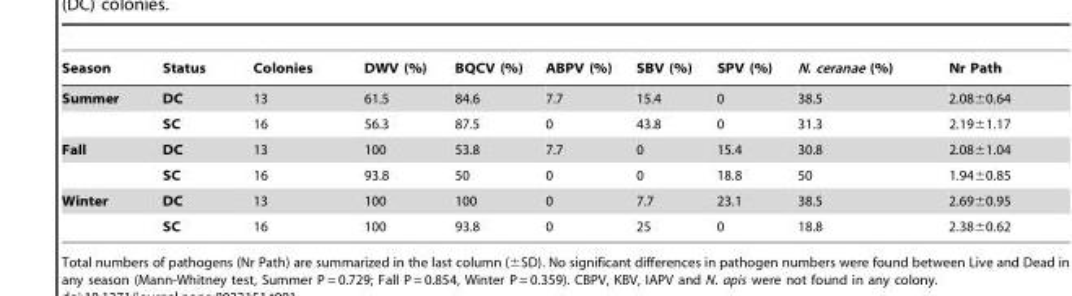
<table><thead><tr><td>Season</td><td>Status</td><td>Colonies</td><td>DWV (%)</td><td>BQCV (%)</td><td>ABPV (%)</td><td>SBV (%)</td><td>SPV (%)</td><td>N. ceranae (%)</td><td>Nr Path</td></tr></thead><tbody><tr><td rowspan="2">Summer</td><td>DC</td><td>13</td><td>61.5</td><td>84.6</td><td>7.7</td><td>15.4</td><td>0</td><td>38.5</td><td>2.08±0.64</td></tr><tr><td>SC</td><td>16</td><td>56.3</td><td>87.5</td><td>0</td><td>43.8</td><td>0</td><td>31.3</td><td>2.19±1.17</td></tr><tr><td rowspan="2">Fall</td><td>DC</td><td>13</td><td>100</td><td>53.8</td><td>7.7</td><td>0</td><td>15.4</td><td>30.8</td><td>2.08±1.04</td></tr><tr><td>SC</td><td>16</td><td>93.8</td><td>50</td><td>0</td><td>0</td><td>18.8</td><td>50</td><td>1.94±0.85</td></tr><tr><td rowspan="2">Winter</td><td>DC</td><td>13</td><td>100</td><td>100</td><td>0</td><td>7.7</td><td>23.1</td><td>38.5</td><td>2.69±0.95</td></tr><tr><td>SC</td><td>16</td><td>100</td><td>93.8</td><td>0</td><td>25</td><td>0</td><td>18.8</td><td>2.38±0.62</td></tr></tbody></table>